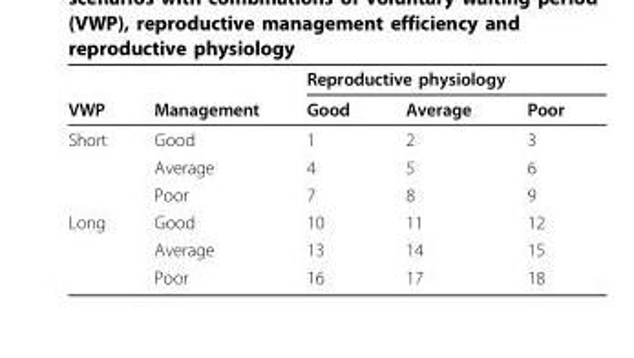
<table><thead><tr><td rowspan="2">VWP</td><td rowspan="2">Management</td><td colspan="3">Reproductive physiology</td></tr><tr><td>Good</td><td>Average</td><td>Poor</td></tr></thead><tbody><tr><td rowspan="3">Short</td><td>Good</td><td>1</td><td>2</td><td>3</td></tr><tr><td>Average</td><td>4</td><td>5</td><td>6</td></tr><tr><td>Poor</td><td>7</td><td>8</td><td>9</td></tr><tr><td rowspan="3">Long</td><td>Good</td><td>10</td><td>11</td><td>12</td></tr><tr><td>Average</td><td>13</td><td>14</td><td>15</td></tr><tr><td>Poor</td><td>16</td><td>17</td><td>18</td></tr></tbody></table>